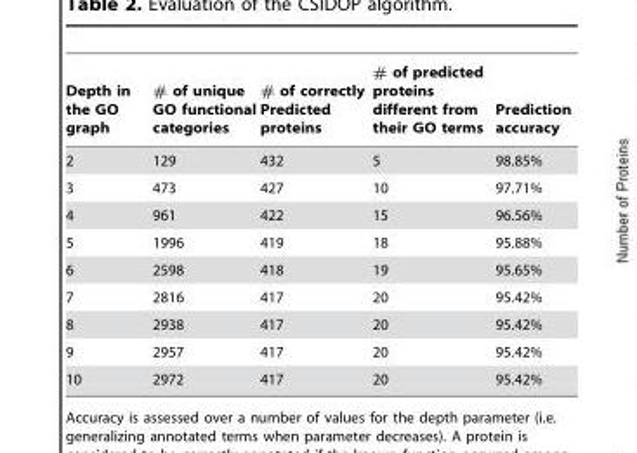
<table><thead><tr><td>Depth in the GO graph</td><td># of unique GO functional categories</td><td># of correctly Predicted proteins</td><td># of predicted proteins different from their GO terms</td><td>Prediction accuracy</td></tr></thead><tbody><tr><td>2</td><td>129</td><td>432</td><td>5</td><td>98.85%</td></tr><tr><td>3</td><td>473</td><td>427</td><td>10</td><td>97.71%</td></tr><tr><td>4</td><td>961</td><td>422</td><td>15</td><td>96.56%</td></tr><tr><td>5</td><td>1996</td><td>419</td><td>18</td><td>95.88%</td></tr><tr><td>6</td><td>2598</td><td>418</td><td>19</td><td>95.65%</td></tr><tr><td>7</td><td>2816</td><td>417</td><td>20</td><td>95.42%</td></tr><tr><td>8</td><td>2938</td><td>417</td><td>20</td><td>95.42%</td></tr><tr><td>9</td><td>2957</td><td>417</td><td>20</td><td>95.42%</td></tr><tr><td>10</td><td>2972</td><td>417</td><td>20</td><td>95.42%</td></tr></tbody></table>